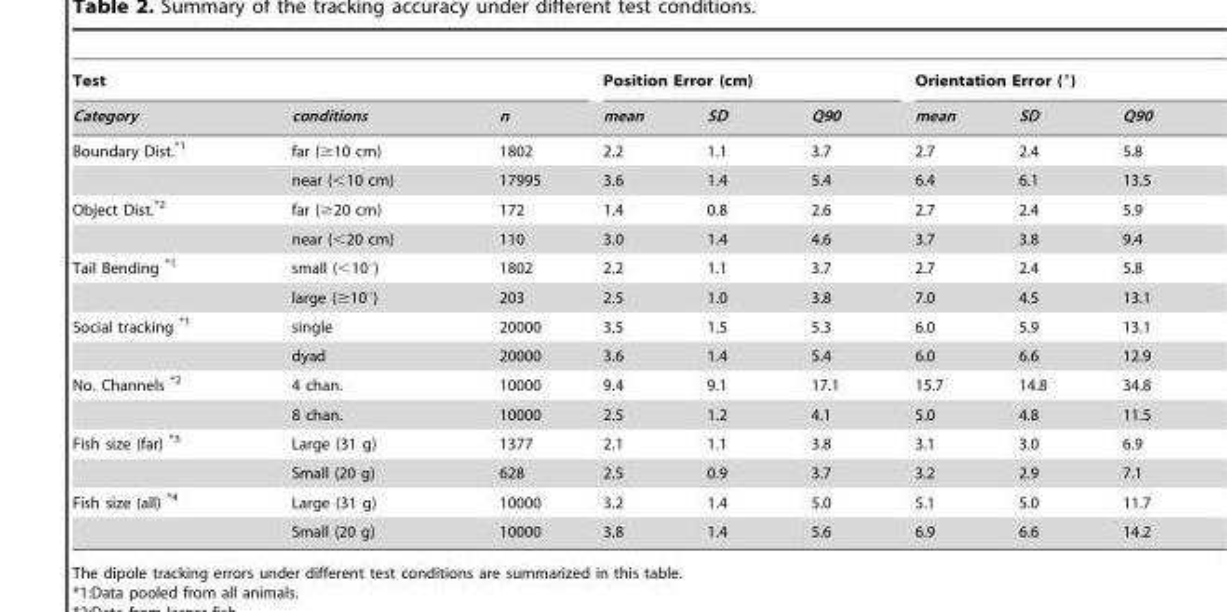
<table><thead><tr><td colspan="3">Test</td><td colspan="3">Position Error (cm)</td><td colspan="3">Orientation Error (°)</td></tr><tr><td>Category</td><td>conditions</td><td>n</td><td>mean</td><td>SD</td><td>Q90</td><td>mean</td><td>SD</td><td>Q90</td></tr></thead><tbody><tr><td rowspan="2">Boundary Dist.<sup>*1</sup></td><td>far (≥10 cm)</td><td>1802</td><td>2.2</td><td>1.1</td><td>3.7</td><td>2.7</td><td>2.4</td><td>5.8</td></tr><tr><td>near (&lt;10 cm)</td><td>17995</td><td>3.6</td><td>1.4</td><td>5.4</td><td>6.4</td><td>6.1</td><td>13.5</td></tr><tr><td rowspan="2">Object Dist.<sup>*2</sup></td><td>far (≥20 cm)</td><td>172</td><td>1.4</td><td>0.8</td><td>2.6</td><td>2.7</td><td>2.4</td><td>5.9</td></tr><tr><td>near (&lt;20 cm)</td><td>110</td><td>3.0</td><td>1.4</td><td>4.6</td><td>3.7</td><td>3.8</td><td>9.4</td></tr><tr><td rowspan="2">Tail Bending <sup>*1</sup></td><td>small (&lt;10°)</td><td>1802</td><td>2.2</td><td>1.1</td><td>3.7</td><td>2.7</td><td>2.4</td><td>5.8</td></tr><tr><td>large (≥10°)</td><td>203</td><td>2.5</td><td>1.0</td><td>3.8</td><td>7.0</td><td>4.5</td><td>13.1</td></tr><tr><td rowspan="2">Social tracking <sup>*1</sup></td><td>single</td><td>20000</td><td>3.5</td><td>1.5</td><td>5.3</td><td>6.0</td><td>5.9</td><td>13.1</td></tr><tr><td>dyad</td><td>20000</td><td>3.6</td><td>1.4</td><td>5.4</td><td>6.0</td><td>6.6</td><td>12.9</td></tr><tr><td rowspan="2">No. Channels <sup>*2</sup></td><td>4 chan.</td><td>10000</td><td>9.4</td><td>9.1</td><td>17.1</td><td>15.7</td><td>14.8</td><td>34.8</td></tr><tr><td>8 chan.</td><td>10000</td><td>2.5</td><td>1.2</td><td>4.1</td><td>5.0</td><td>4.8</td><td>11.5</td></tr><tr><td rowspan="2">Fish size (far) <sup>*3</sup></td><td>Large (31 g)</td><td>1377</td><td>2.1</td><td>1.1</td><td>3.8</td><td>3.1</td><td>3.0</td><td>6.9</td></tr><tr><td>Small (20 g)</td><td>628</td><td>2.5</td><td>0.9</td><td>3.7</td><td>3.2</td><td>2.9</td><td>7.1</td></tr><tr><td rowspan="2">Fish size (all) <sup>*4</sup></td><td>Large (31 g)</td><td>10000</td><td>3.2</td><td>1.4</td><td>5.0</td><td>5.1</td><td>5.0</td><td>11.7</td></tr><tr><td>Small (20 g)</td><td>10000</td><td>3.8</td><td>1.4</td><td>5.6</td><td>6.9</td><td>6.6</td><td>14.2</td></tr></tbody></table>